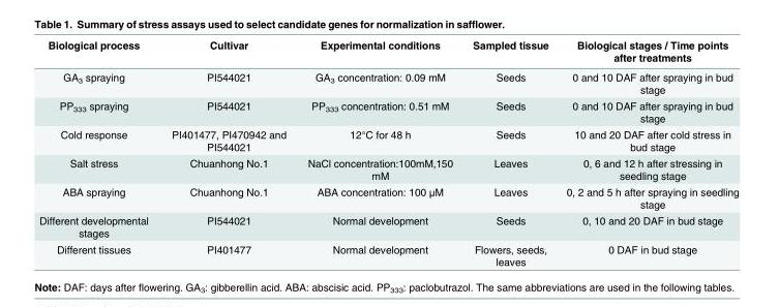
<table><thead><tr><td>Biological process</td><td>Cultivar</td><td>Experimental conditions</td><td>Sampled tissue</td><td>Biological stages / Time points after treatments</td></tr></thead><tbody><tr><td>GA<sub>3</sub> spraying</td><td>PI544021</td><td>GA<sub>3</sub> concentration: 0.09 mM</td><td>Seeds</td><td>0 and 10 DAF after spraying in bud stage</td></tr><tr><td>PP<sub>333</sub> spraying</td><td>PI544021</td><td>PP<sub>333</sub> concentration: 0.51 mM</td><td>Seeds</td><td>0 and 10 DAF after spraying in bud stage</td></tr><tr><td>Cold response</td><td>PI401477, PI470942 and PI544021</td><td>12°C for 48 h</td><td>Seeds</td><td>10 and 20 DAF after cold stress in bud stage</td></tr><tr><td>Salt stress</td><td>Chuanhong No.1</td><td>NaCl concentration:100mM,150 mM</td><td>Leaves</td><td>0, 6 and 12 h after stressing in seedling stage</td></tr><tr><td>ABA spraying</td><td>Chuanhong No.1</td><td>ABA concentration: 100 μM</td><td>Leaves</td><td>0, 2 and 5 h after spraying in seedling stage</td></tr><tr><td>Different developmental stages</td><td>PI544021</td><td>Normal development</td><td>Seeds</td><td>0, 10 and 20 DAF in bud stage</td></tr><tr><td>Different tissues</td><td>PI401477</td><td>Normal development</td><td>Flowers, seeds, leaves</td><td>0 DAF in bud stage</td></tr></tbody></table>